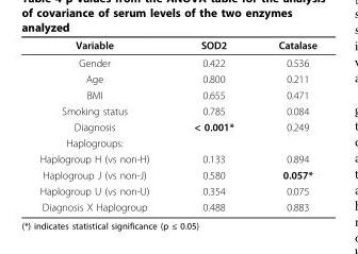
<table><thead><tr><td>Variable</td><td>SOD2</td><td>Catalase</td></tr></thead><tbody><tr><td>Gender</td><td>0.422</td><td>0.536</td></tr><tr><td>Age</td><td>0.800</td><td>0.211</td></tr><tr><td>BMI</td><td>0.655</td><td>0.471</td></tr><tr><td>Smoking status</td><td>0.785</td><td>0.084</td></tr><tr><td>Diagnosis</td><td>&lt; 0.001*</td><td>0.249</td></tr><tr><td colspan="3">Haplogroups:</td></tr><tr><td>Haplogroup H (vs non-H)</td><td>0.133</td><td>0.894</td></tr><tr><td>Haplogroup J (vs non-J)</td><td>0.580</td><td>0.057*</td></tr><tr><td>Haplogroup U (vs non-U)</td><td>0.354</td><td>0.075</td></tr><tr><td>Diagnosis X Haplogroup</td><td>0.488</td><td>0.883</td></tr></tbody></table>